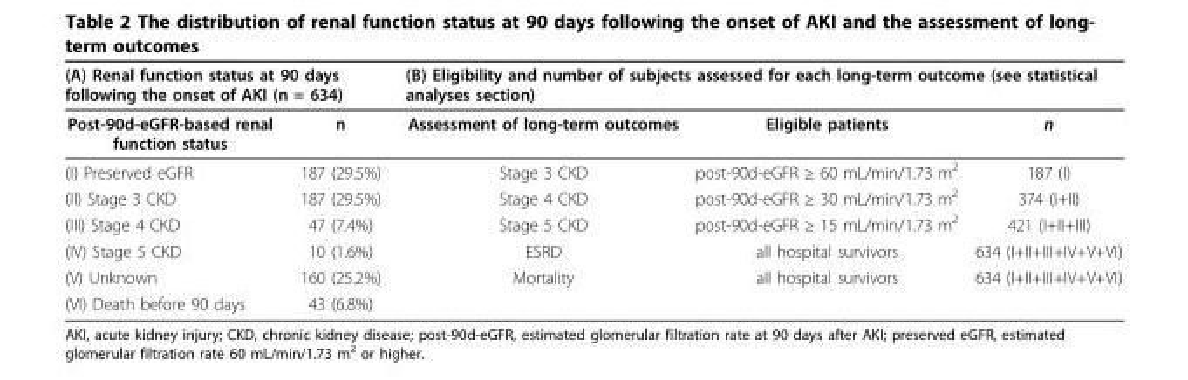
<table><thead><tr><td colspan="2">(A) Renal function status at 90 days following the onset of AKI (n = 634)</td><td colspan="3">(B) Eligibility and number of subjects assessed for each long-term outcome (see statistical analyses section)</td></tr><tr><td>Post-90d-eGFR-based renal function status</td><td>n</td><td>Assessment of long-term outcomes</td><td>Eligible patients</td><td>n</td></tr></thead><tbody><tr><td>(I) Preserved eGFR</td><td>187 (29.5%)</td><td>Stage 3 CKD</td><td>post-90d-eGFR ≥ 60 mL/min/1.73 m<sup>2</sup></td><td>187 (I)</td></tr><tr><td>(II) Stage 3 CKD</td><td>187 (29.5%)</td><td>Stage 4 CKD</td><td>post-90d-eGFR ≥ 30 mL/min/1.73 m<sup>2</sup></td><td>374 (I+II)</td></tr><tr><td>(III) Stage 4 CKD</td><td>47 (7.4%)</td><td>Stage 5 CKD</td><td>post-90d-eGFR ≥ 15 mL/min/1.73 m<sup>2</sup></td><td>421 (I+II+III)</td></tr><tr><td>(IV) Stage 5 CKD</td><td>10 (1.6%)</td><td>ESRD</td><td>all hospital survivors</td><td>634 (I+II+III+IV+V+VI)</td></tr><tr><td>(V) Unknown</td><td>160 (25.2%)</td><td>Mortality</td><td>all hospital survivors</td><td>634 (I+II+III+IV+V+VI)</td></tr><tr><td>(VI) Death before 90 days</td><td>43 (6.8%)</td><td></td><td></td><td></td></tr></tbody></table>